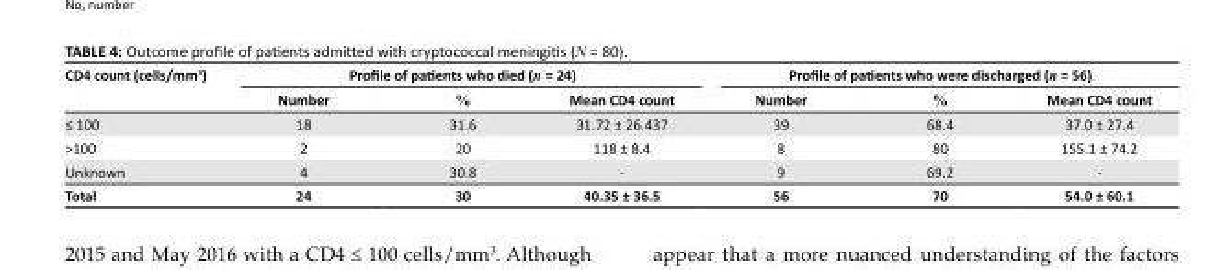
<table><thead><tr><td rowspan="2">CD4 count (cells/mm<sup>3</sup>)</td><td colspan="3">Profile of patients who died (n = 24)</td><td colspan="3">Profile of patients who were discharged (n = 56)</td></tr><tr><td>Number</td><td>%</td><td>Mean CD4 count</td><td>Number</td><td>%</td><td>Mean CD4 count</td></tr></thead><tbody><tr><td>≤ 100</td><td>18</td><td>31.6</td><td>31.72 ± 26.437</td><td>39</td><td>68.4</td><td>37.0 ± 27.4</td></tr><tr><td>&gt;100</td><td>2</td><td>20</td><td>118 ± 8.4</td><td>8</td><td>80</td><td>155.1 ± 74.2</td></tr><tr><td>Unknown</td><td>4</td><td>30.8</td><td>-</td><td>9</td><td>69.2</td><td>-</td></tr><tr><td>Total</td><td>24</td><td>30</td><td>40.35 ± 36.5</td><td>56</td><td>70</td><td>54.0 ± 60.1</td></tr></tbody></table>